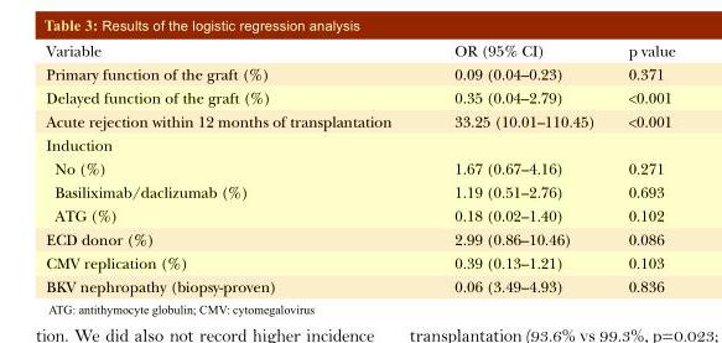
<table><thead><tr><td>Variable</td><td>OR (95% CI)</td><td>p value</td></tr></thead><tbody><tr><td>Primary function of the graft (%)</td><td>0.09 (0.04–0.23)</td><td>0.371</td></tr><tr><td>Delayed function of the graft (%)</td><td>0.35 (0.04–2.79)</td><td>&lt;0.001</td></tr><tr><td>Acute rejection within 12 months of transplantation</td><td>33.25 (10.01–110.45)</td><td>&lt;0.001</td></tr><tr><td colspan="3">Induction</td></tr><tr><td>No (%)</td><td>1.67 (0.67–4.16)</td><td>0.271</td></tr><tr><td>Basiliximab/daclizumab (%)</td><td>1.19 (0.51–2.76)</td><td>0.693</td></tr><tr><td>ATG (%)</td><td>0.18 (0.02–1.40)</td><td>0.102</td></tr><tr><td>ECD donor (%)</td><td>2.99 (0.86–10.46)</td><td>0.086</td></tr><tr><td>CMV replication (%)</td><td>0.39 (0.13–1.21)</td><td>0.103</td></tr><tr><td>BKV nephropathy (biopsy-proven)</td><td>0.06 (3.49–4.93)</td><td>0.836</td></tr></tbody></table>